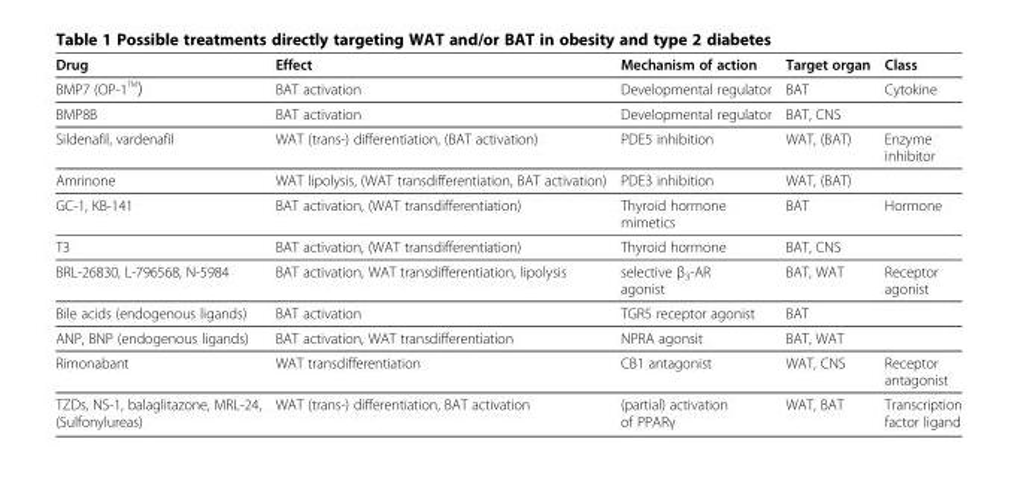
<table><thead><tr><td>Drug</td><td>Effect</td><td>Mechanism of action</td><td>Target organ</td><td>Class</td></tr></thead><tbody><tr><td>BMP7 (OP-1 TM)</td><td>BAT activation</td><td>Developmental regulator</td><td>BAT</td><td>Cytokine</td></tr><tr><td>BMP8B</td><td>BAT activation</td><td>Developmental regulator</td><td>BAT, CNS</td><td></td></tr><tr><td>Sildenafil, vardenafil</td><td>WAT (trans-) differentiation, (BAT activation)</td><td>PDE5 inhibition</td><td>WAT, (BAT)</td><td>Enzyme inhibitor</td></tr><tr><td>Amrinone</td><td>WAT lipolysis, (WAT transdifferentiation, BAT activation)</td><td>PDE3 inhibition</td><td>WAT, (BAT)</td><td></td></tr><tr><td>GC-1, KB-141</td><td>BAT activation, (WAT transdifferentiation)</td><td>Thyroid hormone mimetics</td><td>BAT</td><td>Hormone</td></tr><tr><td>T3</td><td>BAT activation, (WAT transdifferentiation)</td><td>Thyroid hormone</td><td>BAT, CNS</td><td></td></tr><tr><td>BRL-26830, L-796568, N-5984</td><td>BAT activation, WAT transdifferentiation, lipolysis</td><td>selective β<sub>3</sub>-AR agonist</td><td>BAT, WAT</td><td>Receptor agonist</td></tr><tr><td>Bile acids (endogenous ligands)</td><td>BAT activation</td><td>TGR5 receptor agonist</td><td>BAT</td><td></td></tr><tr><td>ANP, BNP (endogenous ligands)</td><td>BAT activation, WAT transdifferentiation</td><td>NPRA agonsit</td><td>BAT, WAT</td><td></td></tr><tr><td>Rimonabant</td><td>WAT transdifferentiation</td><td>CB1 antagonist</td><td>WAT, CNS</td><td>Receptor antagonist</td></tr><tr><td>TZDs, NS-1, balaglitazone, MRL-24, (Sulfonylureas)</td><td>WAT (trans-) differentiation, BAT activation</td><td>(partial) activation of PPARγ</td><td>WAT, BAT</td><td>Transcription factor ligand</td></tr></tbody></table>